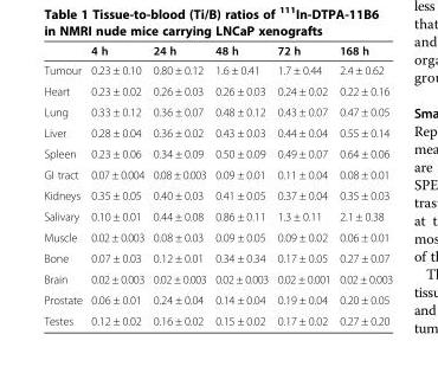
<table><thead><tr><td></td><td>4 h</td><td>24 h</td><td>48 h</td><td>72 h</td><td>168 h</td></tr></thead><tbody><tr><td>Tumour</td><td>0.23 ± 0.10</td><td>0.80 ± 0.12</td><td>1.6 ± 0.41</td><td>1.7 ± 0.44</td><td>2.4 ± 0.62</td></tr><tr><td>Heart</td><td>0.23 ± 0.02</td><td>0.26 ± 0.03</td><td>0.26 ± 0.03</td><td>0.24 ± 0.02</td><td>0.22 ± 0.16</td></tr><tr><td>Lung</td><td>0.33 ± 0.12</td><td>0.36 ± 0.07</td><td>0.48 ± 0.12</td><td>0.43 ± 0.07</td><td>0.47 ± 0.05</td></tr><tr><td>Liver</td><td>0.28 ± 0.04</td><td>0.36 ± 0.02</td><td>0.43 ± 0.03</td><td>0.44 ± 0.04</td><td>0.55 ± 0.14</td></tr><tr><td>Spleen</td><td>0.23 ± 0.06</td><td>0.34 ± 0.09</td><td>0.50 ± 0.09</td><td>0.49 ± 0.07</td><td>0.64 ± 0.06</td></tr><tr><td>GI tract</td><td>0.07 ± 0.004</td><td>0.08 ± 0.003</td><td>0.09 ± 0.01</td><td>0.11 ± 0.04</td><td>0.08 ± 0.01</td></tr><tr><td>Kidneys</td><td>0.35 ± 0.05</td><td>0.40 ± 0.03</td><td>0.41 ± 0.05</td><td>0.37 ± 0.04</td><td>0.35 ± 0.03</td></tr><tr><td>Salivary</td><td>0.10 ± 0.01</td><td>0.44 ± 0.08</td><td>0.86 ± 0.11</td><td>1.3 ± 0.11</td><td>2.1 ± 0.38</td></tr><tr><td>Muscle</td><td>0.02 ± 0.003</td><td>0.08 ± 0.03</td><td>0.09 ± 0.05</td><td>0.09 ± 0.02</td><td>0.06 ± 0.01</td></tr><tr><td>Bone</td><td>0.07 ± 0.03</td><td>0.12 ± 0.01</td><td>0.34 ± 0.34</td><td>0.17 ± 0.05</td><td>0.27 ± 0.07</td></tr><tr><td>Brain</td><td>0.02 ± 0.003</td><td>0.02 ± 0.003</td><td>0.02 ± 0.003</td><td>0.02 ± 0.001</td><td>0.02 ± 0.003</td></tr><tr><td>Prostate</td><td>0.06 ± 0.01</td><td>0.24 ± 0.04</td><td>0.14 ± 0.04</td><td>0.19 ± 0.04</td><td>0.20 ± 0.05</td></tr><tr><td>Testes</td><td>0.12 ± 0.02</td><td>0.16 ± 0.02</td><td>0.15 ± 0.02</td><td>0.17 ± 0.02</td><td>0.27 ± 0.20</td></tr></tbody></table>